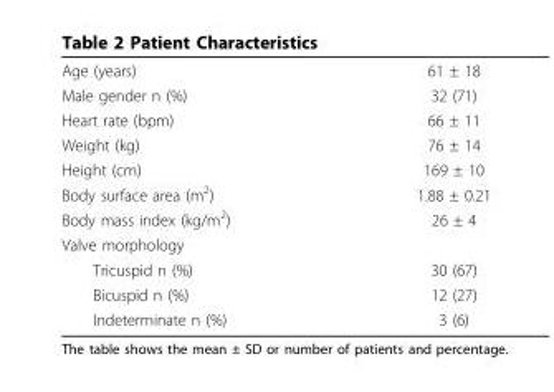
<table><tbody><tr><td>Age (years)</td><td>61 ± 18</td></tr><tr><td>Male gender n (%)</td><td>32 (71)</td></tr><tr><td>Heart rate (bpm)</td><td>66 ± 11</td></tr><tr><td>Weight (kg)</td><td>76 ± 14</td></tr><tr><td>Height (cm)</td><td>169 ± 10</td></tr><tr><td>Body surface area (m<sup>2</sup>)</td><td>1.88 ± 0.21</td></tr><tr><td>Body mass index (kg/m<sup>2</sup>)</td><td>26 ± 4</td></tr><tr><td colspan="2">Valve morphology</td></tr><tr><td>Tricuspid n (%)</td><td>30 (67)</td></tr><tr><td>Bicuspid n (%)</td><td>12 (27)</td></tr><tr><td>Indeterminate n (%)</td><td>3 (6)</td></tr></tbody></table>